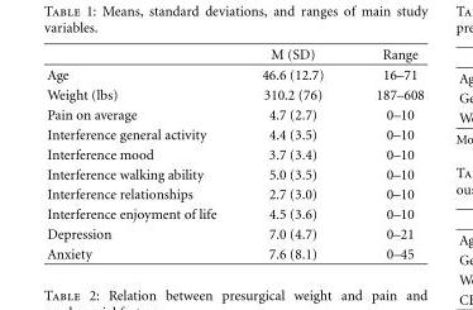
<table><thead><tr><td></td><td>M (SD)</td><td>Range</td></tr></thead><tbody><tr><td>Age</td><td>46.6 (12.7)</td><td>16–71</td></tr><tr><td>Weight (lbs)</td><td>310.2 (76)</td><td>187–608</td></tr><tr><td>Pain on average</td><td>4.7 (2.7)</td><td>0–10</td></tr><tr><td>Interference general activity</td><td>4.4 (3.5)</td><td>0–10</td></tr><tr><td>Interference mood</td><td>3.7 (3.4)</td><td>0–10</td></tr><tr><td>Interference walking ability</td><td>5.0 (3.5)</td><td>0–10</td></tr><tr><td>Interference relationships</td><td>2.7 (3.0)</td><td>0–10</td></tr><tr><td>Interference enjoyment of life</td><td>4.5 (3.6)</td><td>0–10</td></tr><tr><td>Depression</td><td>7.0 (4.7)</td><td>0–21</td></tr><tr><td>Anxiety</td><td>7.6 (8.1)</td><td>0–45</td></tr></tbody></table>